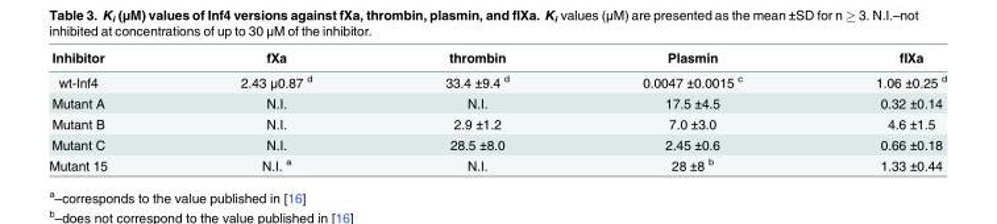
<table><thead><tr><td>Inhibitor</td><td>fXa</td><td>thrombin</td><td>Plasmin</td><td>fIXa</td></tr></thead><tbody><tr><td>wt-Inf4</td><td>2.43 μ0.87 <sup>d</sup></td><td>33.4 ±9.4 <sup>d</sup></td><td>0.0047 ±0.0015 <sup>c</sup></td><td>1.06 ±0.25 <sup>d</sup></td></tr><tr><td>Mutant A</td><td>N.I.</td><td>N.I.</td><td>17.5 ±4.5</td><td>0.32 ±0.14</td></tr><tr><td>Mutant B</td><td>N.I.</td><td>2.9 ±1.2</td><td>7.0 ±3.0</td><td>4.6 ±1.5</td></tr><tr><td>Mutant C</td><td>N.I.</td><td>28.5 ±8.0</td><td>2.45 ±0.6</td><td>0.66 ±0.18</td></tr><tr><td>Mutant 15</td><td>N.I. <sup>a</sup></td><td>N.I.</td><td>28 ±8 <sup>b</sup></td><td>1.33 ±0.44</td></tr></tbody></table>